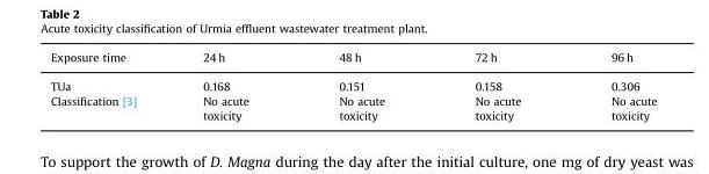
<table><thead><tr><td>Exposure time</td><td>24 h</td><td>48 h</td><td>72 h</td><td>96 h</td></tr></thead><tbody><tr><td>TUa</td><td>0.168</td><td>0.151</td><td>0.158</td><td>0.306</td></tr><tr><td>Classification [3]</td><td>No acute toxicity</td><td>No acute toxicity</td><td>No acute toxicity</td><td>No acute toxicity</td></tr></tbody></table>